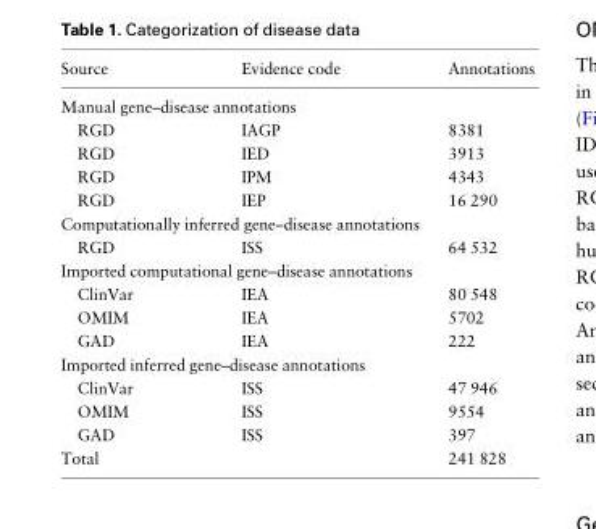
<table><thead><tr><td>Source</td><td>Evidence code</td><td>Annotations</td></tr></thead><tbody><tr><td colspan="3">Manual gene–disease annotations</td></tr><tr><td>RGD</td><td>IAGP</td><td>8381</td></tr><tr><td>RGD</td><td>IED</td><td>3913</td></tr><tr><td>RGD</td><td>IPM</td><td>4343</td></tr><tr><td>RGD</td><td>IEP</td><td>16 290</td></tr><tr><td colspan="3">Computationally inferred gene–disease annotations</td></tr><tr><td>RGD</td><td>ISS</td><td>64 532</td></tr><tr><td colspan="3">Imported computational gene–disease annotations</td></tr><tr><td>ClinVar</td><td>IEA</td><td>80 548</td></tr><tr><td>OMIM</td><td>IEA</td><td>5702</td></tr><tr><td>GAD</td><td>IEA</td><td>222</td></tr><tr><td colspan="3">Imported inferred gene–disease annotations</td></tr><tr><td>ClinVar</td><td>ISS</td><td>47 946</td></tr><tr><td>OMIM</td><td>ISS</td><td>9554</td></tr><tr><td>GAD</td><td>ISS</td><td>397</td></tr><tr><td>Total</td><td></td><td>241 828</td></tr></tbody></table>